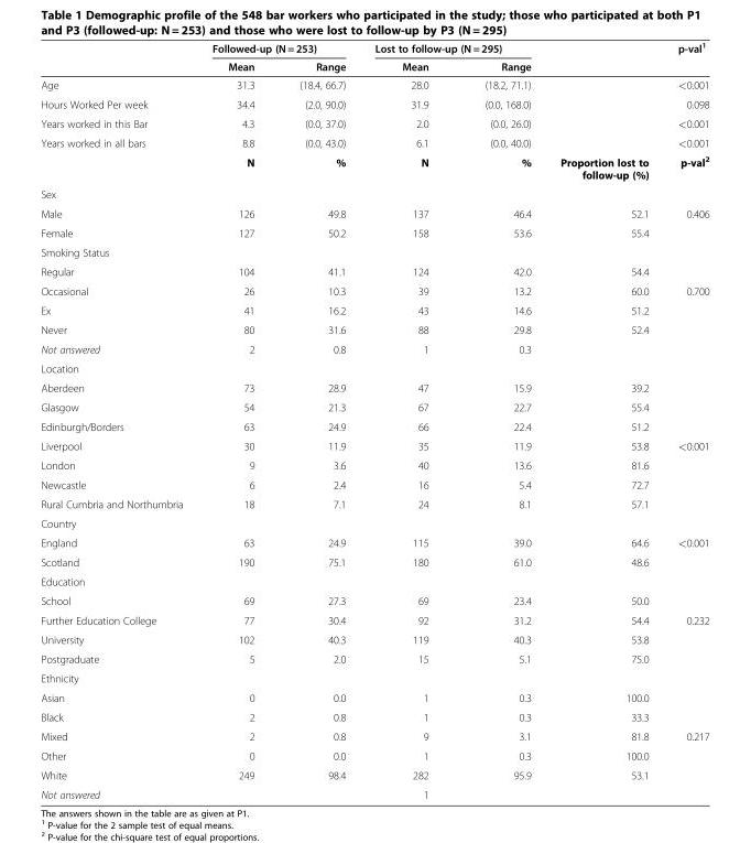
<table><thead><tr><td rowspan="2"></td><td colspan="2">Followed-up (N = 253)</td><td colspan="2">Lost to follow-up (N = 295)</td><td rowspan="2"></td><td rowspan="2">p-val<sup>1</sup></td></tr><tr><td>Mean</td><td>Range</td><td>Mean</td><td>Range</td></tr></thead><tbody><tr><td>Age</td><td>31.3</td><td>(18.4, 66.7)</td><td>28.0</td><td>(18.2, 71.1)</td><td></td><td>&lt;0.001</td></tr><tr><td>Hours Worked Per week</td><td>34.4</td><td>(2.0, 90.0)</td><td>31.9</td><td>(0.0, 168.0)</td><td></td><td>0.098</td></tr><tr><td>Years worked in this Bar</td><td>4.3</td><td>(0.0, 37.0)</td><td>2.0</td><td>(0.0, 26.0)</td><td></td><td>&lt;0.001</td></tr><tr><td rowspan="2">Years worked in all bars</td><td>8.8</td><td>(0.0, 43.0)</td><td>6.1</td><td>(0.0, 40.0)</td><td></td><td>&lt;0.001</td></tr><tr><td>N</td><td>%</td><td>N</td><td>%</td><td>Proportion lost to follow-up (%)</td><td>p-val<sup>2</sup></td></tr><tr><td colspan="7">Sex</td></tr><tr><td>Male</td><td>126</td><td>49.8</td><td>137</td><td>46.4</td><td>52.1</td><td>0.406</td></tr><tr><td>Female</td><td>127</td><td>50.2</td><td>158</td><td>53.6</td><td>55.4</td><td></td></tr><tr><td colspan="7">Smoking Status</td></tr><tr><td>Regular</td><td>104</td><td>41.1</td><td>124</td><td>42.0</td><td>54.4</td><td></td></tr><tr><td>Occasional</td><td>26</td><td>10.3</td><td>39</td><td>13.2</td><td>60.0</td><td>0.700</td></tr><tr><td>Ex</td><td>41</td><td>16.2</td><td>43</td><td>14.6</td><td>51.2</td><td></td></tr><tr><td>Never</td><td>80</td><td>31.6</td><td>88</td><td>29.8</td><td>52.4</td><td></td></tr><tr><td>Not answered</td><td>2</td><td>0.8</td><td>1</td><td>0.3</td><td></td><td></td></tr><tr><td colspan="7">Location</td></tr><tr><td>Aberdeen</td><td>73</td><td>28.9</td><td>47</td><td>15.9</td><td>39.2</td><td></td></tr><tr><td>Glasgow</td><td>54</td><td>21.3</td><td>67</td><td>22.7</td><td>55.4</td><td></td></tr><tr><td>Edinburgh/Borders</td><td>63</td><td>24.9</td><td>66</td><td>22.4</td><td>51.2</td><td></td></tr><tr><td>Liverpool</td><td>30</td><td>11.9</td><td>35</td><td>11.9</td><td>53.8</td><td>&lt;0.001</td></tr><tr><td>London</td><td>9</td><td>3.6</td><td>40</td><td>13.6</td><td>81.6</td><td></td></tr><tr><td>Newcastle</td><td>6</td><td>2.4</td><td>16</td><td>5.4</td><td>72.7</td><td></td></tr><tr><td>Rural Cumbria and Northumbria</td><td>18</td><td>7.1</td><td>24</td><td>8.1</td><td>57.1</td><td></td></tr><tr><td colspan="7">Country</td></tr><tr><td>England</td><td>63</td><td>24.9</td><td>115</td><td>39.0</td><td>64.6</td><td>&lt;0.001</td></tr><tr><td>Scotland</td><td>190</td><td>75.1</td><td>180</td><td>61.0</td><td>48.6</td><td></td></tr><tr><td colspan="7">Education</td></tr><tr><td>School</td><td>69</td><td>27.3</td><td>69</td><td>23.4</td><td>50.0</td><td></td></tr><tr><td>Further Education College</td><td>77</td><td>30.4</td><td>92</td><td>31.2</td><td>54.4</td><td>0.232</td></tr><tr><td>University</td><td>102</td><td>40.3</td><td>119</td><td>40.3</td><td>53.8</td><td></td></tr><tr><td>Postgraduate</td><td>5</td><td>2.0</td><td>15</td><td>5.1</td><td>75.0</td><td></td></tr><tr><td colspan="7">Ethnicity</td></tr><tr><td>Asian</td><td>0</td><td>0.0</td><td>1</td><td>0.3</td><td>100.0</td><td></td></tr><tr><td>Black</td><td>2</td><td>0.8</td><td>1</td><td>0.3</td><td>33.3</td><td></td></tr><tr><td>Mixed</td><td>2</td><td>0.8</td><td>9</td><td>3.1</td><td>81.8</td><td>0.217</td></tr><tr><td>Other</td><td>0</td><td>0.0</td><td>1</td><td>0.3</td><td>100.0</td><td></td></tr><tr><td>White</td><td>249</td><td>98.4</td><td>282</td><td>95.9</td><td>53.1</td><td></td></tr><tr><td>Not answered</td><td></td><td></td><td>1</td><td></td><td></td><td></td></tr></tbody></table>